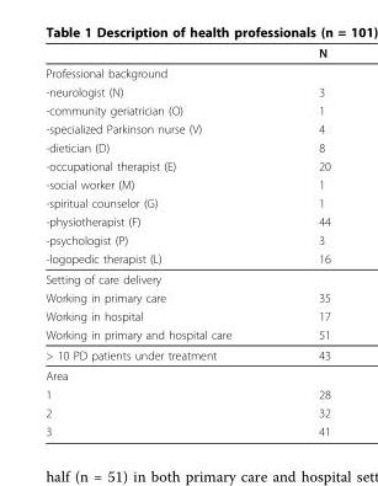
<table><thead><tr><td></td><td>N</td></tr></thead><tbody><tr><td colspan="2">Professional background</td></tr><tr><td>-neurologist (N)</td><td>3</td></tr><tr><td>-community geriatrician (O)</td><td>1</td></tr><tr><td>-specialized Parkinson nurse (V)</td><td>4</td></tr><tr><td>-dietician (D)</td><td>8</td></tr><tr><td>-occupational therapist (E)</td><td>20</td></tr><tr><td>-social worker (M)</td><td>1</td></tr><tr><td>-spiritual counselor (G)</td><td>1</td></tr><tr><td>-physiotherapist (F)</td><td>44</td></tr><tr><td>-psychologist (P)</td><td>3</td></tr><tr><td>-logopedic therapist (L)</td><td>16</td></tr><tr><td colspan="2">Setting of care delivery</td></tr><tr><td>Working in primary care</td><td>35</td></tr><tr><td>Working in hospital</td><td>17</td></tr><tr><td>Working in primary and hospital care</td><td>51</td></tr><tr><td>&gt; 10 PD patients under treatment</td><td>43</td></tr><tr><td colspan="2">Area</td></tr><tr><td>1</td><td>28</td></tr><tr><td>2</td><td>32</td></tr><tr><td>3</td><td>41</td></tr></tbody></table>